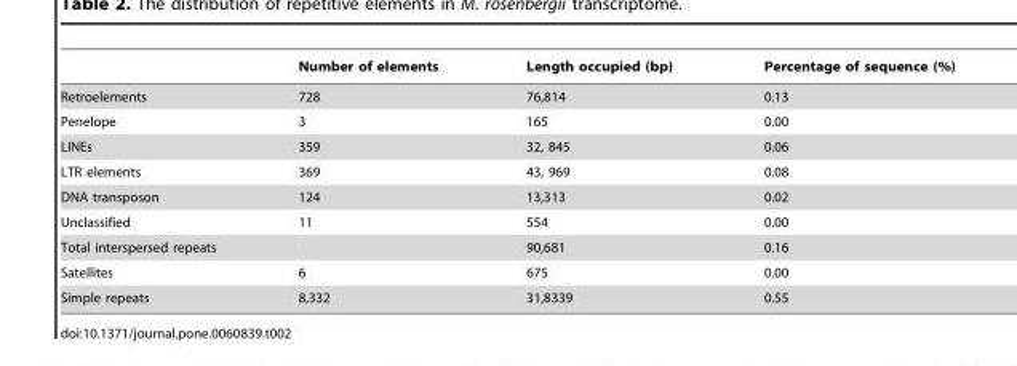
<table><thead><tr><td></td><td>Number of elements</td><td>Length occupied (bp)</td><td>Percentage of sequence (%)</td></tr></thead><tbody><tr><td>Retroelements</td><td>728</td><td>76,814</td><td>0.13</td></tr><tr><td>Penelope</td><td>3</td><td>165</td><td>0.00</td></tr><tr><td>LINEs</td><td>359</td><td>32, 845</td><td>0.06</td></tr><tr><td>LTR elements</td><td>369</td><td>43, 969</td><td>0.08</td></tr><tr><td>DNA transposon</td><td>124</td><td>13,313</td><td>0.02</td></tr><tr><td>Unclassified</td><td>11</td><td>554</td><td>0.00</td></tr><tr><td>Total interspersed repeats</td><td></td><td>90,681</td><td>0.16</td></tr><tr><td>Satellites</td><td>6</td><td>675</td><td>0.00</td></tr><tr><td>Simple repeats</td><td>8,332</td><td>31,8339</td><td>0.55</td></tr></tbody></table>